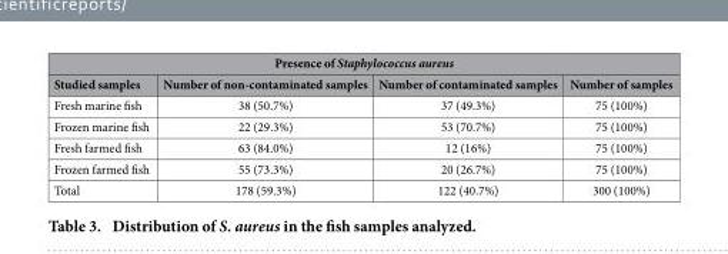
<table><thead><tr><td colspan="4">Presence of Staphylococcus aureus</td></tr><tr><td>Studied samples</td><td>Number of non-contaminated samples</td><td>Number of contaminated samples</td><td>Number of samples</td></tr></thead><tbody><tr><td>Fresh marine fish</td><td>38 (50.7%)</td><td>37 (49.3%)</td><td>75 (100%)</td></tr><tr><td>Frozen marine fish</td><td>22 (29.3%)</td><td>53 (70.7%)</td><td>75 (100%)</td></tr><tr><td>Fresh farmed fish</td><td>63 (84.0%)</td><td>12 (16%)</td><td>75 (100%)</td></tr><tr><td>Frozen farmed fish</td><td>55 (73.3%)</td><td>20 (26.7%)</td><td>75 (100%)</td></tr><tr><td>Total</td><td>178 (59.3%)</td><td>122 (40.7%)</td><td>300 (100%)</td></tr></tbody></table>